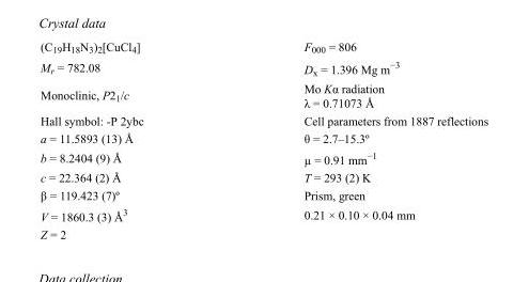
<table><tbody><tr><td>(C<sub>19</sub>H<sub>18</sub>N<sub>3</sub>)<sub>2</sub>[CuCl<sub>4</sub>]</td><td>F<sub>000</sub> = 806</td></tr><tr><td>M<sub>r</sub> = 782.08</td><td>D<sub>x</sub> = 1.396 Mg m<sup>−3</sup></td></tr><tr><td>Monoclinic, P2<sub>1</sub>/c</td><td>Mo Kα radiation λ = 0.71073 Å</td></tr><tr><td>Hall symbol: -P 2ybc</td><td>Cell parameters from 1887 reflections</td></tr><tr><td>a = 11.5893 (13) Å</td><td>θ = 2.7–15.3º</td></tr><tr><td>b = 8.2404 (9) Å</td><td>µ = 0.91 mm<sup>−1</sup></td></tr><tr><td>c = 22.364 (2) Å</td><td>T = 293 (2) K</td></tr><tr><td>β = 119.423 (7)º</td><td>Prism, green</td></tr><tr><td>V = 1860.3 (3) Å<sup>3</sup></td><td>0.21 × 0.10 × 0.04 mm</td></tr><tr><td>Z = 2</td><td></td></tr></tbody></table>